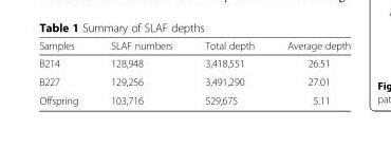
<table><thead><tr><td>Samples</td><td>SLAF numbers</td><td>Total depth</td><td>Average depth</td></tr></thead><tbody><tr><td>B214</td><td>128,948</td><td>3,418,551</td><td>26.51</td></tr><tr><td>B227</td><td>129,256</td><td>3,491,290</td><td>27.01</td></tr><tr><td>Offspring</td><td>103,716</td><td>529,675</td><td>5.11</td></tr></tbody></table>